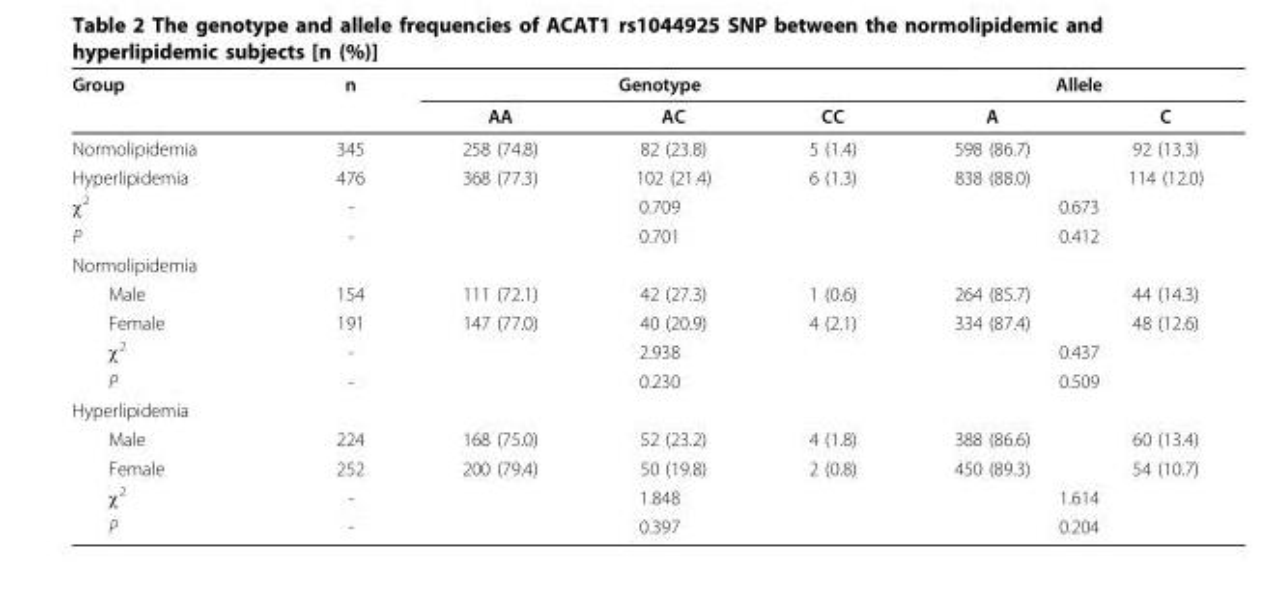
<table><thead><tr><td rowspan="2">Group</td><td rowspan="2">n</td><td colspan="3">Genotype</td><td colspan="2">Allele</td></tr><tr><td>AA</td><td>AC</td><td>CC</td><td>A</td><td>C</td></tr></thead><tbody><tr><td>Normolipidemia</td><td>345</td><td>258 (74.8)</td><td>82 (23.8)</td><td>5 (1.4)</td><td>598 (86.7)</td><td>92 (13.3)</td></tr><tr><td>Hyperlipidemia</td><td>476</td><td>368 (77.3)</td><td>102 (21.4)</td><td>6 (1.3)</td><td>838 (88.0)</td><td>114 (12.0)</td></tr><tr><td>χ<sup>2</sup></td><td>-</td><td colspan="3">0.709</td><td colspan="2">0.673</td></tr><tr><td>P</td><td>-</td><td colspan="3">0.701</td><td colspan="2">0.412</td></tr><tr><td colspan="7">Normolipidemia</td></tr><tr><td>Male</td><td>154</td><td>111 (72.1)</td><td>42 (27.3)</td><td>1 (0.6)</td><td>264 (85.7)</td><td>44 (14.3)</td></tr><tr><td>Female</td><td>191</td><td>147 (77.0)</td><td>40 (20.9)</td><td>4 (2.1)</td><td>334 (87.4)</td><td>48 (12.6)</td></tr><tr><td>χ<sup>2</sup></td><td>-</td><td colspan="3">2.938</td><td colspan="2">0.437</td></tr><tr><td>P</td><td>-</td><td colspan="3">0.230</td><td colspan="2">0.509</td></tr><tr><td colspan="7">Hyperlipidemia</td></tr><tr><td>Male</td><td>224</td><td>168 (75.0)</td><td>52 (23.2)</td><td>4 (1.8)</td><td>388 (86.6)</td><td>60 (13.4)</td></tr><tr><td>Female</td><td>252</td><td>200 (79.4)</td><td>50 (19.8)</td><td>2 (0.8)</td><td>450 (89.3)</td><td>54 (10.7)</td></tr><tr><td>χ<sup>2</sup></td><td>-</td><td colspan="3">1.848</td><td colspan="2">1.614</td></tr><tr><td>P</td><td>-</td><td colspan="3">0.397</td><td colspan="2">0.204</td></tr></tbody></table>